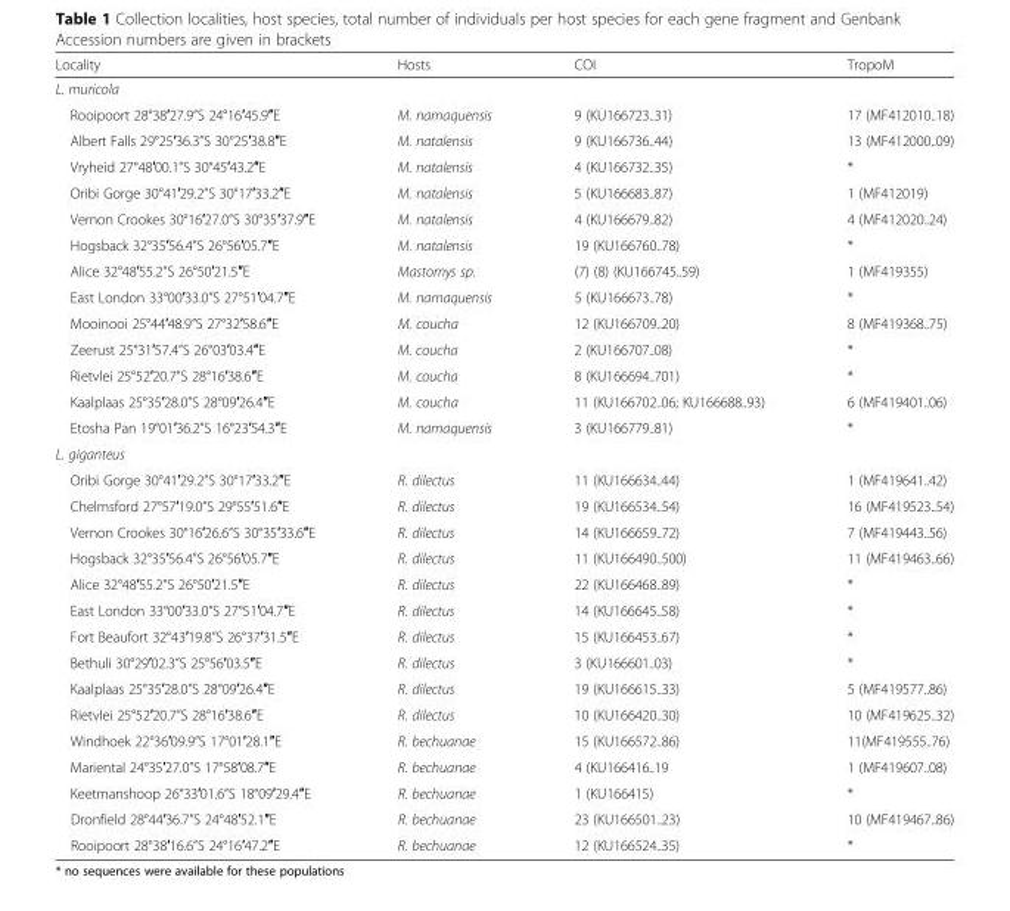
<table><thead><tr><td>Locality</td><td>Hosts</td><td>COI</td><td>TropoM</td></tr></thead><tbody><tr><td colspan="4">L. muricola</td></tr><tr><td>Rooipoort 28°38′27.9”S 24°16′45.9″E</td><td>M. namaquensis</td><td>9 (KU166723..31)</td><td>17 (MF412010..18)</td></tr><tr><td>Albert Falls 29°25′36.3”S 30°25′38.8″E</td><td>M. natalensis</td><td>9 (KU166736..44)</td><td>13 (MF412000..09)</td></tr><tr><td>Vryheid 27°48′00.1”S 30°45′43.2″E</td><td>M. natalensis</td><td>4 (KU166732..35)</td><td>*</td></tr><tr><td>Oribi Gorge 30°41′29.2”S 30°17′33.2″E</td><td>M. natalensis</td><td>5 (KU166683..87)</td><td>1 (MF412019)</td></tr><tr><td>Vernon Crookes 30°16′27.0”S 30°35′37.9″E</td><td>M. natalensis</td><td>4 (KU166679..82)</td><td>4 (MF412020..24)</td></tr><tr><td>Hogsback 32°35′56.4”S 26°56′05.7″E</td><td>M. natalensis</td><td>19 (KU166760..78)</td><td>*</td></tr><tr><td>Alice 32°48′55.2”S 26°50′21.5″E</td><td>Mastomys sp.</td><td>(7) (8) (KU166745..59)</td><td>1 (MF419355)</td></tr><tr><td>East London 33°00′33.0”S 27°51′04.7″E</td><td>M. namaquensis</td><td>5 (KU166673..78)</td><td>*</td></tr><tr><td>Mooinooi 25°44′48.9”S 27°32′58.6″E</td><td>M. coucha</td><td>12 (KU166709..20)</td><td>8 (MF419368..75)</td></tr><tr><td>Zeerust 25°31′57.4”S 26°03′03.4″E</td><td>M. coucha</td><td>2 (KU166707..08)</td><td>*</td></tr><tr><td>Rietvlei 25°52′20.7”S 28°16′38.6″E</td><td>M. coucha</td><td>8 (KU166694..701)</td><td>*</td></tr><tr><td>Kaalplaas 25°35′28.0”S 28°09′26.4″E</td><td>M. coucha</td><td>11 (KU166702..06; KU166688..93)</td><td>6 (MF419401..06)</td></tr><tr><td>Etosha Pan 19°01′36.2”S 16°23′54.3″E</td><td>M. namaquensis</td><td>3 (KU166779..81)</td><td>*</td></tr><tr><td colspan="4">L. giganteus</td></tr><tr><td>Oribi Gorge 30°41′29.2”S 30°17′33.2″E</td><td>R. dilectus</td><td>11 (KU166634..44)</td><td>1 (MF419641..42)</td></tr><tr><td>Chelmsford 27°57′19.0”S 29°55′51.6″E</td><td>R. dilectus</td><td>19 (KU166534..54)</td><td>16 (MF419523..54)</td></tr><tr><td>Vernon Crookes 30°16′26.6”S 30°35′33.6″E</td><td>R. dilectus</td><td>14 (KU166659..72)</td><td>7 (MF419443..56)</td></tr><tr><td>Hogsback 32°35′56.4”S 26°56′05.7″E</td><td>R. dilectus</td><td>11 (KU166490..500)</td><td>11 (MF419463..66)</td></tr><tr><td>Alice 32°48′55.2”S 26°50′21.5″E</td><td>R. dilectus</td><td>22 (KU166468..89)</td><td>*</td></tr><tr><td>East London 33°00′33.0”S 27°51′04.7″E</td><td>R. dilectus</td><td>14 (KU166645..58)</td><td>*</td></tr><tr><td>Fort Beaufort 32°43′19.8”S 26°37′31.5″E</td><td>R. dilectus</td><td>15 (KU166453..67)</td><td>*</td></tr><tr><td>Bethuli 30°29′02.3”S 25°56′03.5″E</td><td>R. dilectus</td><td>3 (KU166601..03)</td><td>*</td></tr><tr><td>Kaalplaas 25°35′28.0”S 28°09′26.4″E</td><td>R. dilectus</td><td>19 (KU166615..33)</td><td>5 (MF419577..86)</td></tr><tr><td>Rietvlei 25°52′20.7”S 28°16′38.6″E</td><td>R. dilectus</td><td>10 (KU166420..30)</td><td>10 (MF419625..32)</td></tr><tr><td>Windhoek 22°36′09.9”S 17°01′28.1″E</td><td>R. bechuanae</td><td>15 (KU166572..86)</td><td>11(MF419555..76)</td></tr><tr><td>Mariental 24°35′27.0”S 17°58′08.7″E</td><td>R. bechuanae</td><td>4 (KU166416..19</td><td>1 (MF419607..08)</td></tr><tr><td>Keetmanshoop 26°33′01.6”S 18°09′29.4″E</td><td>R. bechuanae</td><td>1 (KU166415)</td><td>*</td></tr><tr><td>Dronfield 28°44′36.7”S 24°48′52.1″E</td><td>R. bechuanae</td><td>23 (KU166501..23)</td><td>10 (MF419467..86)</td></tr><tr><td>Rooipoort 28°38′16.6”S 24°16′47.2″E</td><td>R. bechuanae</td><td>12 (KU166524..35)</td><td>*</td></tr></tbody></table>